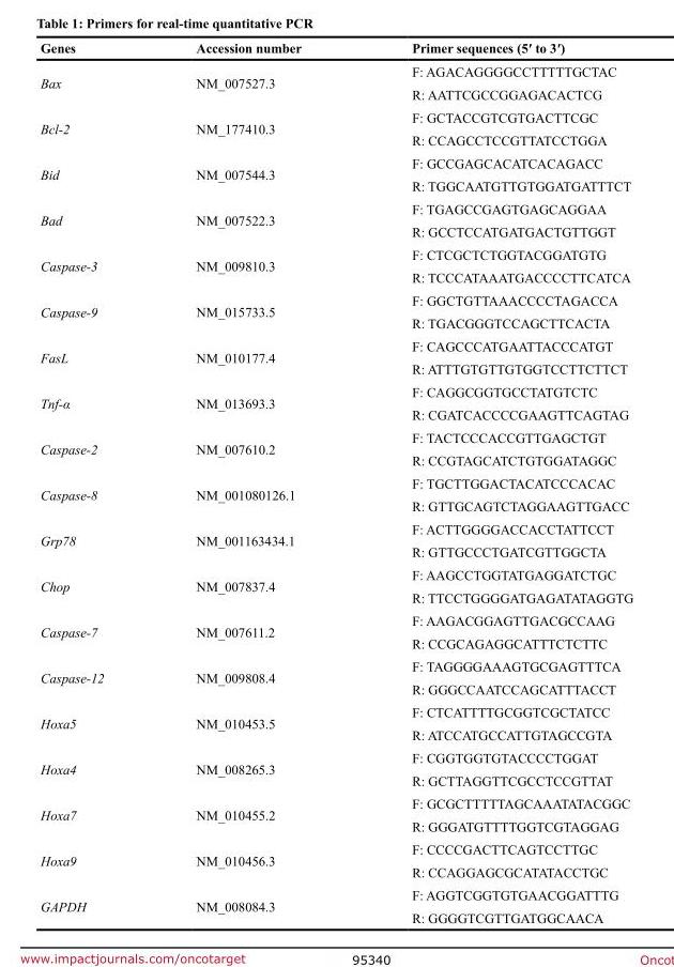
<table><thead><tr><td>Genes</td><td>Accession number</td><td>Primer sequences (5′ to 3′)</td></tr></thead><tbody><tr><td rowspan="2">Bax</td><td rowspan="2">NM_007527.3</td><td>F: AGACAGGGGCCTTTTTGCTAC</td></tr><tr><td>R: AATTCGCCGGAGACACTCG</td></tr><tr><td rowspan="2">Bcl-2</td><td rowspan="2">NM_177410.3</td><td>F: GCTACCGTCGTGACTTCGC</td></tr><tr><td>R: CCAGCCTCCGTTATCCTGGA</td></tr><tr><td rowspan="2">Bid</td><td rowspan="2">NM_007544.3</td><td>F: GCCGAGCACATCACAGACC</td></tr><tr><td>R: TGGCAATGTTGTGGATGATTTCT</td></tr><tr><td rowspan="2">Bad</td><td rowspan="2">NM_007522.3</td><td>F: TGAGCCGAGTGAGCAGGAA</td></tr><tr><td>R: GCCTCCATGATGACTGTTGGT</td></tr><tr><td rowspan="2">Caspase-3</td><td rowspan="2">NM_009810.3</td><td>F: CTCGCTCTGGTACGGATGTG</td></tr><tr><td>R: TCCCATAAATGACCCCTTCATCA</td></tr><tr><td rowspan="2">Caspase-9</td><td rowspan="2">NM_015733.5</td><td>F: GGCTGTTAAACCCCTAGACCA</td></tr><tr><td>R: TGACGGGTCCAGCTTCACTA</td></tr><tr><td rowspan="2">FasL</td><td rowspan="2">NM_010177.4</td><td>F: CAGCCCATGAATTACCCATGT</td></tr><tr><td>R: ATTTGTGTTGTGGTCCTTCTTCT</td></tr><tr><td rowspan="2">Tnf-α</td><td rowspan="2">NM_013693.3</td><td>F: CAGGCGGTGCCTATGTCTC</td></tr><tr><td>R: CGATCACCCCGAAGTTCAGTAG</td></tr><tr><td rowspan="2">Caspase-2</td><td rowspan="2">NM_007610.2</td><td>F: TACTCCCACCGTTGAGCTGT</td></tr><tr><td>R: CCGTAGCATCTGTGGATAGGC</td></tr><tr><td rowspan="2">Caspase-8</td><td rowspan="2">NM_001080126.1</td><td>F: TGCTTGGACTACATCCCACAC</td></tr><tr><td>R: GTTGCAGTCTAGGAAGTTGACC</td></tr><tr><td rowspan="2">Grp78</td><td rowspan="2">NM_001163434.1</td><td>F: ACTTGGGGACCACCTATTCCT</td></tr><tr><td>R: GTTGCCCTGATCGTTGGCTA</td></tr><tr><td rowspan="2">Chop</td><td rowspan="2">NM_007837.4</td><td>F: AAGCCTGGTATGAGGATCTGC</td></tr><tr><td>R: TTCCTGGGGATGAGATATAGGTG</td></tr><tr><td rowspan="2">Caspase-7</td><td rowspan="2">NM_007611.2</td><td>F: AAGACGGAGTTGACGCCAAG</td></tr><tr><td>R: CCGCAGAGGCATTTCTCTTC</td></tr><tr><td rowspan="2">Caspase-12</td><td rowspan="2">NM_009808.4</td><td>F: TAGGGGAAAGTGCGAGTTTCA</td></tr><tr><td>R: GGGCCAATCCAGCATTTACCT</td></tr><tr><td rowspan="2">Hoxa5</td><td rowspan="2">NM_010453.5</td><td>F: CTCATTTTGCGGTCGCTATCC</td></tr><tr><td>R: ATCCATGCCATTGTAGCCGTA</td></tr><tr><td rowspan="2">Hoxa4</td><td rowspan="2">NM_008265.3</td><td>F: CGGTGGTGTACCCCTGGAT</td></tr><tr><td>R: GCTTAGGTTCGCCTCCGTTAT</td></tr><tr><td rowspan="2">Hoxa7</td><td rowspan="2">NM_010455.2</td><td>F: GCGCTTTTTAGCAAATATACGGC</td></tr><tr><td>R: GGGATGTTTTGGTCGTAGGAG</td></tr><tr><td rowspan="2">Hoxa9</td><td rowspan="2">NM_010456.3</td><td>F: CCCCGACTTCAGTCCTTGC</td></tr><tr><td>R: CCAGGAGCGCATATACCTGC</td></tr><tr><td rowspan="2">GAPDH</td><td rowspan="2">NM_008084.3</td><td>F: AGGTCGGTGTGAACGGATTTG</td></tr><tr><td>R: GGGGTCGTTGATGGCAACA</td></tr></tbody></table>